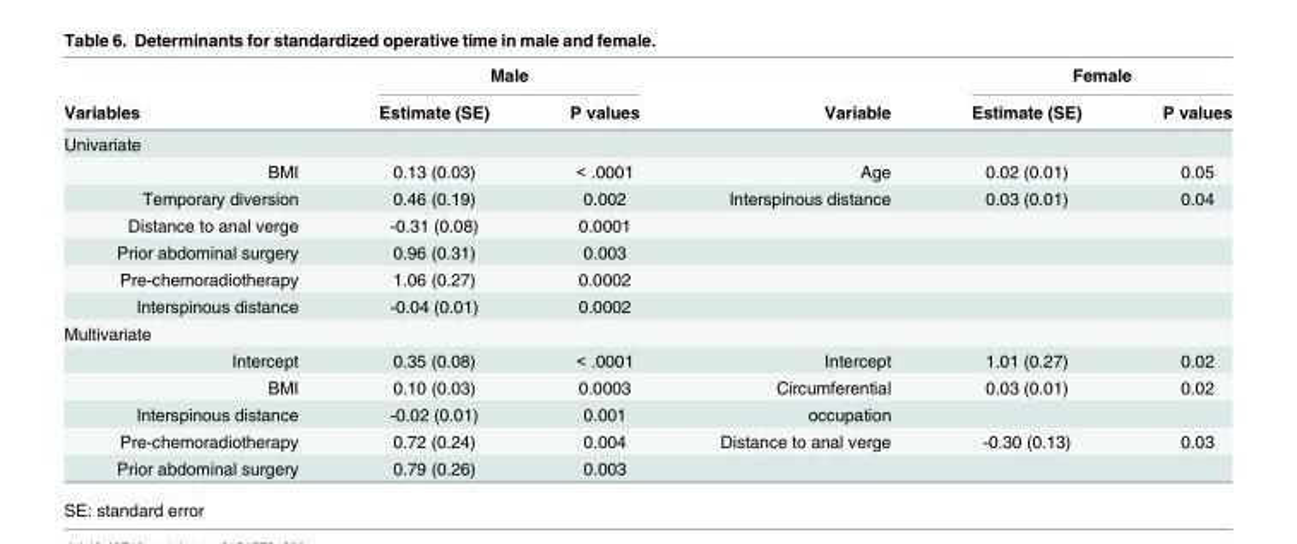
<table><thead><tr><td rowspan="2">Variables</td><td rowspan="2"></td><td colspan="2">Male</td><td rowspan="2">Variable</td><td colspan="2">Female</td></tr><tr><td>Estimate (SE)</td><td>P values</td><td>Estimate (SE)</td><td>P values</td></tr></thead><tbody><tr><td colspan="7">Univariate</td></tr><tr><td colspan="2">BMI</td><td>0.13 (0.03)</td><td>&lt; .0001</td><td>Age</td><td>0.02 (0.01)</td><td>0.05</td></tr><tr><td colspan="2">Temporary diversion</td><td>0.46 (0.19)</td><td>0.002</td><td>Interspinous distance</td><td>0.03 (0.01)</td><td>0.04</td></tr><tr><td colspan="2">Distance to anal verge</td><td>-0.31 (0.08)</td><td>0.0001</td><td></td><td></td><td></td></tr><tr><td colspan="2">Prior abdominal surgery</td><td>0.96 (0.31)</td><td>0.003</td><td></td><td></td><td></td></tr><tr><td colspan="2">Pre-chemoradiotherapy</td><td>1.06 (0.27)</td><td>0.0002</td><td></td><td></td><td></td></tr><tr><td colspan="2">Interspinous distance</td><td>-0.04 (0.01)</td><td>0.0002</td><td></td><td></td><td></td></tr><tr><td colspan="7">Multivariate</td></tr><tr><td></td><td>Intercept</td><td>0.35 (0.08)</td><td>&lt; .0001</td><td>Intercept</td><td>1.01 (0.27)</td><td>0.02</td></tr><tr><td></td><td>BMI</td><td>0.10 (0.03)</td><td>0.0003</td><td>Circumferential</td><td>0.03 (0.01)</td><td>0.02</td></tr><tr><td colspan="2">Interspinous distance</td><td>-0.02 (0.01)</td><td>0.001</td><td>occupation</td><td></td><td></td></tr><tr><td colspan="2">Pre-chemoradiotherapy</td><td>0.72 (0.24)</td><td>0.004</td><td>Distance to anal verge</td><td>-0.30 (0.13)</td><td>0.03</td></tr><tr><td colspan="2">Prior abdominal surgery</td><td>0.79 (0.26)</td><td>0.003</td><td></td><td></td><td></td></tr></tbody></table>